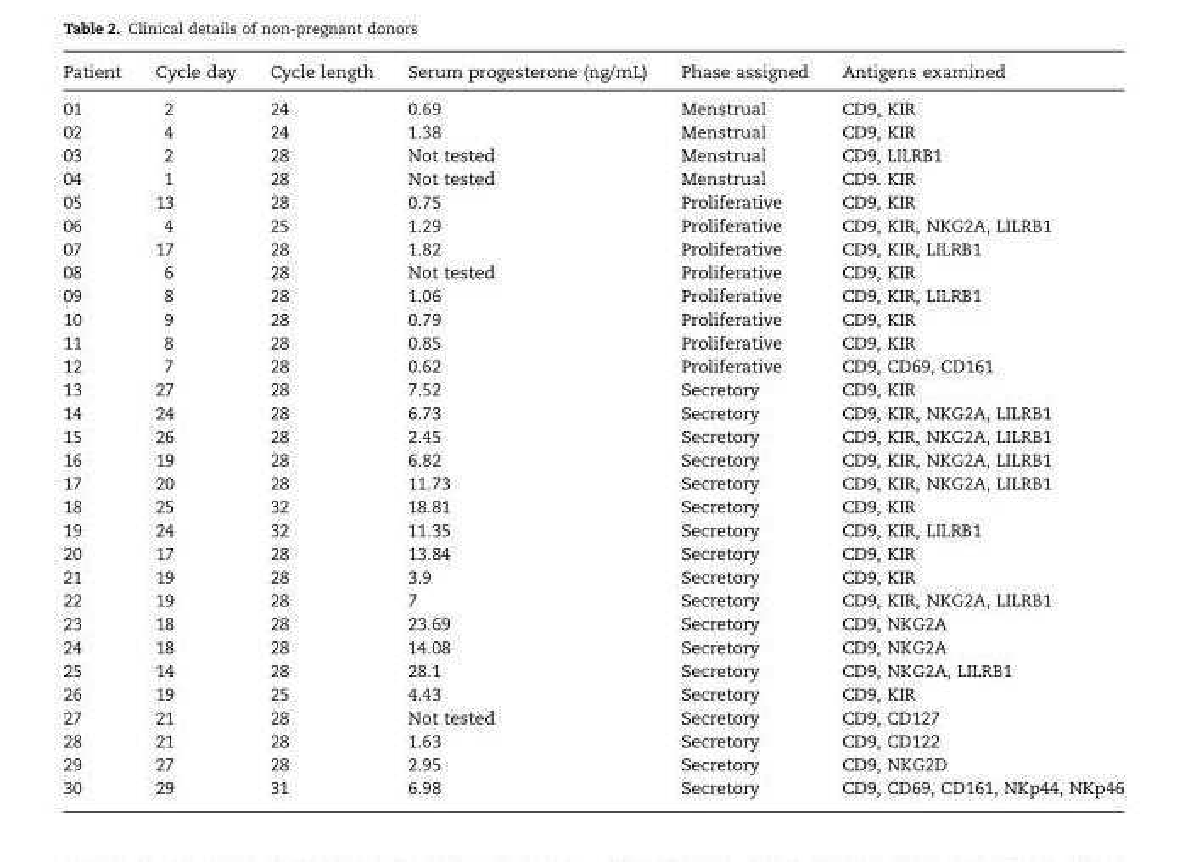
<table><thead><tr><td>Patient</td><td>Cycle day</td><td>Cycle length</td><td>Serum progesterone (ng/mL)</td><td>Phase assigned</td><td>Antigens examined</td></tr></thead><tbody><tr><td>01</td><td>2</td><td>24</td><td>0.69</td><td>Menstrual</td><td>CD9, KIR</td></tr><tr><td>02</td><td>4</td><td>24</td><td>1.38</td><td>Menstrual</td><td>CD9, KIR</td></tr><tr><td>03</td><td>2</td><td>28</td><td>Not tested</td><td>Menstrual</td><td>CD9, LILRB1</td></tr><tr><td>04</td><td>1</td><td>28</td><td>Not tested</td><td>Menstrual</td><td>CD9. KIR</td></tr><tr><td>05</td><td>13</td><td>28</td><td>0.75</td><td>Proliferative</td><td>CD9, KIR</td></tr><tr><td>06</td><td>4</td><td>25</td><td>1.29</td><td>Proliferative</td><td>CD9, KIR, NKG2A, LILRB1</td></tr><tr><td>07</td><td>17</td><td>28</td><td>1.82</td><td>Proliferative</td><td>CD9, KIR, LILRB1</td></tr><tr><td>08</td><td>6</td><td>28</td><td>Not tested</td><td>Proliferative</td><td>CD9, KIR</td></tr><tr><td>09</td><td>8</td><td>28</td><td>1.06</td><td>Proliferative</td><td>CD9, KIR, LILRB1</td></tr><tr><td>10</td><td>9</td><td>28</td><td>0.79</td><td>Proliferative</td><td>CD9, KIR</td></tr><tr><td>11</td><td>8</td><td>28</td><td>0.85</td><td>Proliferative</td><td>CD9, KIR</td></tr><tr><td>12</td><td>7</td><td>28</td><td>0.62</td><td>Proliferative</td><td>CD9, CD69, CD161</td></tr><tr><td>13</td><td>27</td><td>28</td><td>7.52</td><td>Secretory</td><td>CD9, KIR</td></tr><tr><td>14</td><td>24</td><td>28</td><td>6.73</td><td>Secretory</td><td>CD9, KIR, NKG2A, LILRB1</td></tr><tr><td>15</td><td>26</td><td>28</td><td>2.45</td><td>Secretory</td><td>CD9, KIR, NKG2A, LILRB1</td></tr><tr><td>16</td><td>19</td><td>28</td><td>6.82</td><td>Secretory</td><td>CD9, KIR, NKG2A, LILRB1</td></tr><tr><td>17</td><td>20</td><td>28</td><td>11.73</td><td>Secretory</td><td>CD9, KIR, NKG2A, LILRB1</td></tr><tr><td>18</td><td>25</td><td>32</td><td>18.81</td><td>Secretory</td><td>CD9, KIR</td></tr><tr><td>19</td><td>24</td><td>32</td><td>11.35</td><td>Secretory</td><td>CD9, KIR, LILRB1</td></tr><tr><td>20</td><td>17</td><td>28</td><td>13.84</td><td>Secretory</td><td>CD9, KIR</td></tr><tr><td>21</td><td>19</td><td>28</td><td>3.9</td><td>Secretory</td><td>CD9, KIR</td></tr><tr><td>22</td><td>19</td><td>28</td><td>7</td><td>Secretory</td><td>CD9, KIR, NKG2A, LILRB1</td></tr><tr><td>23</td><td>18</td><td>28</td><td>23.69</td><td>Secretory</td><td>CD9, NKG2A</td></tr><tr><td>24</td><td>18</td><td>28</td><td>14.08</td><td>Secretory</td><td>CD9, NKG2A</td></tr><tr><td>25</td><td>14</td><td>28</td><td>28.1</td><td>Secretory</td><td>CD9, NKG2A, LILRB1</td></tr><tr><td>26</td><td>19</td><td>25</td><td>4.43</td><td>Secretory</td><td>CD9, KIR</td></tr><tr><td>27</td><td>21</td><td>28</td><td>Not tested</td><td>Secretory</td><td>CD9, CD127</td></tr><tr><td>28</td><td>21</td><td>28</td><td>1.63</td><td>Secretory</td><td>CD9, CD122</td></tr><tr><td>29</td><td>27</td><td>28</td><td>2.95</td><td>Secretory</td><td>CD9, NKG2D</td></tr><tr><td>30</td><td>29</td><td>31</td><td>6.98</td><td>Secretory</td><td>CD9, CD69, CD161, NKp44, NKp46</td></tr></tbody></table>